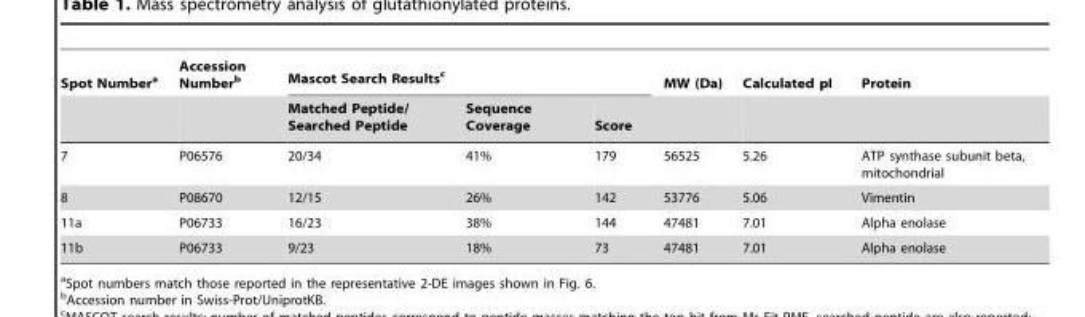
<table><thead><tr><td rowspan="2">Spot Number<sup>a</sup></td><td rowspan="2">Accession Number<sup>b</sup></td><td colspan="3">Mascot Search Results<sup>c</sup></td><td rowspan="2">MW (Da)</td><td rowspan="2">Calculated pI</td><td rowspan="2">Protein</td></tr><tr><td>Matched Peptide/ Searched Peptide</td><td>Sequence Coverage</td><td>Score</td></tr></thead><tbody><tr><td>7</td><td>P06576</td><td>20/34</td><td>41%</td><td>179</td><td>56525</td><td>5.26</td><td>ATP synthase subunit beta, mitochondrial</td></tr><tr><td>8</td><td>P08670</td><td>12/15</td><td>26%</td><td>142</td><td>53776</td><td>5.06</td><td>Vimentin</td></tr><tr><td>11a</td><td>P06733</td><td>16/23</td><td>38%</td><td>144</td><td>47481</td><td>7.01</td><td>Alpha enolase</td></tr><tr><td>11b</td><td>P06733</td><td>9/23</td><td>18%</td><td>73</td><td>47481</td><td>7.01</td><td>Alpha enolase</td></tr></tbody></table>